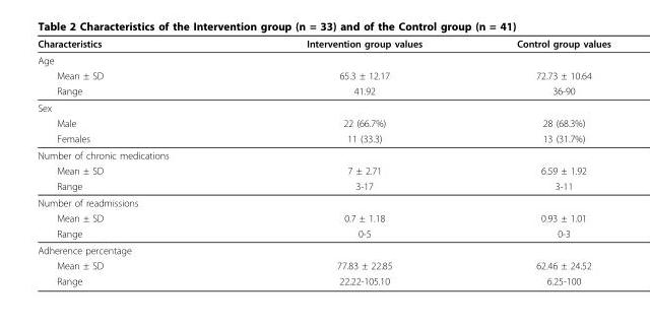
<table><thead><tr><td>Characteristics</td><td>Intervention group values</td><td>Control group values</td></tr></thead><tbody><tr><td colspan="3">Age</td></tr><tr><td>Mean ± SD</td><td>65.3 ± 12.17</td><td>72.73 ± 10.64</td></tr><tr><td>Range</td><td>41.92</td><td>36-90</td></tr><tr><td colspan="3">Sex</td></tr><tr><td>Male</td><td>22 (66.7%)</td><td>28 (68.3%)</td></tr><tr><td>Females</td><td>11 (33.3)</td><td>13 (31.7%)</td></tr><tr><td colspan="3">Number of chronic medications</td></tr><tr><td>Mean ± SD</td><td>7 ± 2.71</td><td>6.59 ± 1.92</td></tr><tr><td>Range</td><td>3-17</td><td>3-11</td></tr><tr><td colspan="3">Number of readmissions</td></tr><tr><td>Mean ± SD</td><td>0.7 ± 1.18</td><td>0.93 ± 1.01</td></tr><tr><td>Range</td><td>0-5</td><td>0-3</td></tr><tr><td colspan="3">Adherence percentage</td></tr><tr><td>Mean ± SD</td><td>77.83 ± 22.85</td><td>62.46 ± 24.52</td></tr><tr><td>Range</td><td>22.22-105.10</td><td>6.25-100</td></tr></tbody></table>